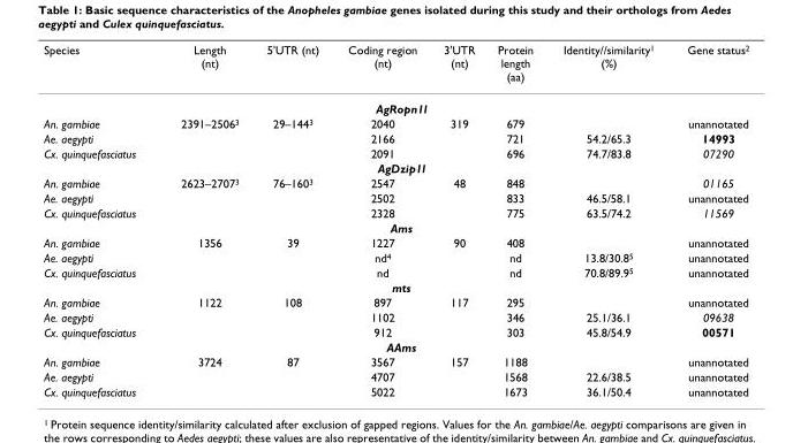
<table><thead><tr><td>Species</td><td>Length (nt)</td><td>5&#x27;UTR (nt)</td><td>Coding region (nt)</td><td>3&#x27;UTR (nt)</td><td>Protein length (aa)</td><td>Identity//similarity<sup>1</sup> (%)</td><td>Gene status<sup>2</sup></td></tr></thead><tbody><tr><td colspan="8">AgRopn1l</td></tr><tr><td>An. gambiae</td><td>2391–2506<sup>3</sup></td><td>29–144<sup>3</sup></td><td>2040</td><td>319</td><td>679</td><td></td><td>unannotated</td></tr><tr><td>Ae. aegypti</td><td></td><td></td><td>2166</td><td></td><td>721</td><td>54.2/65.3</td><td>14993</td></tr><tr><td>Cx. quinquefasciatus</td><td></td><td></td><td>2091</td><td></td><td>696</td><td>74.7/83.8</td><td>07290</td></tr><tr><td colspan="8">AgDzip1l</td></tr><tr><td>An. gambiae</td><td>2623–2707<sup>3</sup></td><td>76–160<sup>3</sup></td><td>2547</td><td>48</td><td>848</td><td></td><td>01165</td></tr><tr><td>Ae. aegypti</td><td></td><td></td><td>2502</td><td></td><td>833</td><td>46.5/58.1</td><td>unannotated</td></tr><tr><td>Cx. quinquefasciatus</td><td></td><td></td><td>2328</td><td></td><td>775</td><td>63.5/74.2</td><td>11569</td></tr><tr><td colspan="8">Ams</td></tr><tr><td>An. gambiae</td><td>1356</td><td>39</td><td>1227</td><td>90</td><td>408</td><td></td><td>unannotated</td></tr><tr><td>Ae. aegypti</td><td></td><td></td><td>nd<sup>4</sup></td><td></td><td>nd</td><td>13.8/30.8<sup>5</sup></td><td>unannotated</td></tr><tr><td>Cx. quinquefasciatus</td><td></td><td></td><td>nd</td><td></td><td>nd</td><td>70.8/89.9<sup>5</sup></td><td>unannotated</td></tr><tr><td colspan="8">mts</td></tr><tr><td>An. gambiae</td><td>1122</td><td>108</td><td>897</td><td>117</td><td>295</td><td></td><td>unannotated</td></tr><tr><td>Ae. aegypti</td><td></td><td></td><td>1102</td><td></td><td>346</td><td>25.1/36.1</td><td>09638</td></tr><tr><td>Cx. quinquefasciatus</td><td></td><td></td><td>912</td><td></td><td>303</td><td>45.8/54.9</td><td>00571</td></tr><tr><td colspan="8">AAms</td></tr><tr><td>An. gambiae</td><td>3724</td><td>87</td><td>3567</td><td>157</td><td>1188</td><td></td><td>unannotated</td></tr><tr><td>Ae. aegypti</td><td></td><td></td><td>4707</td><td></td><td>1568</td><td>22.6/38.5</td><td>unannotated</td></tr><tr><td>Cx. quinquefasciatus</td><td></td><td></td><td>5022</td><td></td><td>1673</td><td>36.1/50.4</td><td>unannotated</td></tr></tbody></table>